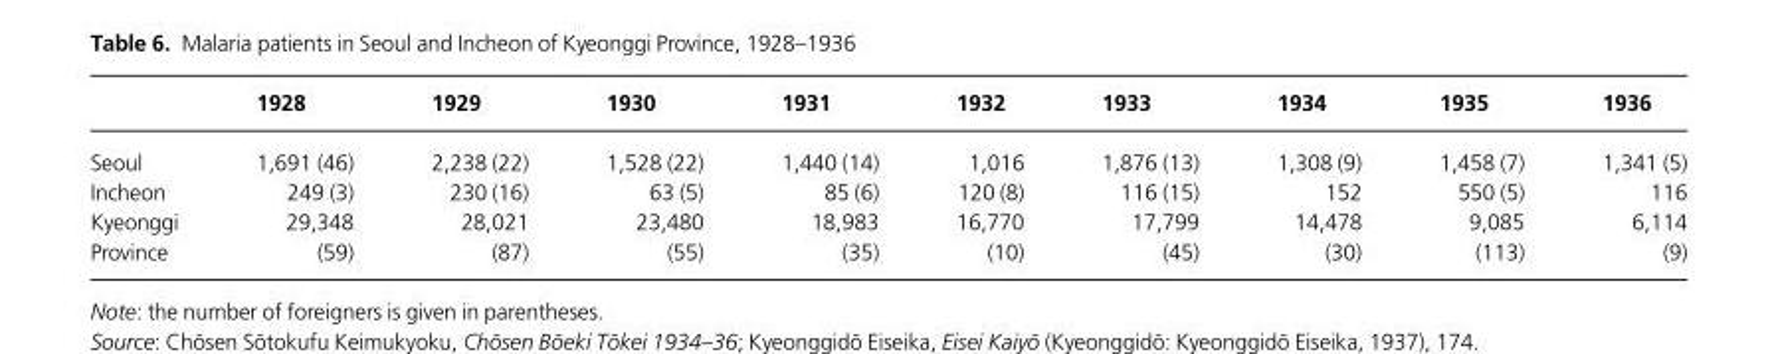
<table><thead><tr><td></td><td>1928</td><td>1929</td><td>1930</td><td>1931</td><td>1932</td><td>1933</td><td>1934</td><td>1935</td><td>1936</td></tr></thead><tbody><tr><td>Seoul</td><td>1,691 (46)</td><td>2,238 (22)</td><td>1,528 (22)</td><td>1,440 (14)</td><td>1,016</td><td>1,876 (13)</td><td>1,308 (9)</td><td>1,458 (7)</td><td>1,341 (5)</td></tr><tr><td>Incheon</td><td>249 (3)</td><td>230 (16)</td><td>63 (5)</td><td>85 (6)</td><td>120 (8)</td><td>116 (15)</td><td>152</td><td>550 (5)</td><td>116</td></tr><tr><td>Kyeonggi</td><td>29,348</td><td>28,021</td><td>23,480</td><td>18,983</td><td>16,770</td><td>17,799</td><td>14,478</td><td>9,085</td><td>6,114</td></tr><tr><td>Province</td><td>(59)</td><td>(87)</td><td>(55)</td><td>(35)</td><td>(10)</td><td>(45)</td><td>(30)</td><td>(113)</td><td>(9)</td></tr></tbody></table>